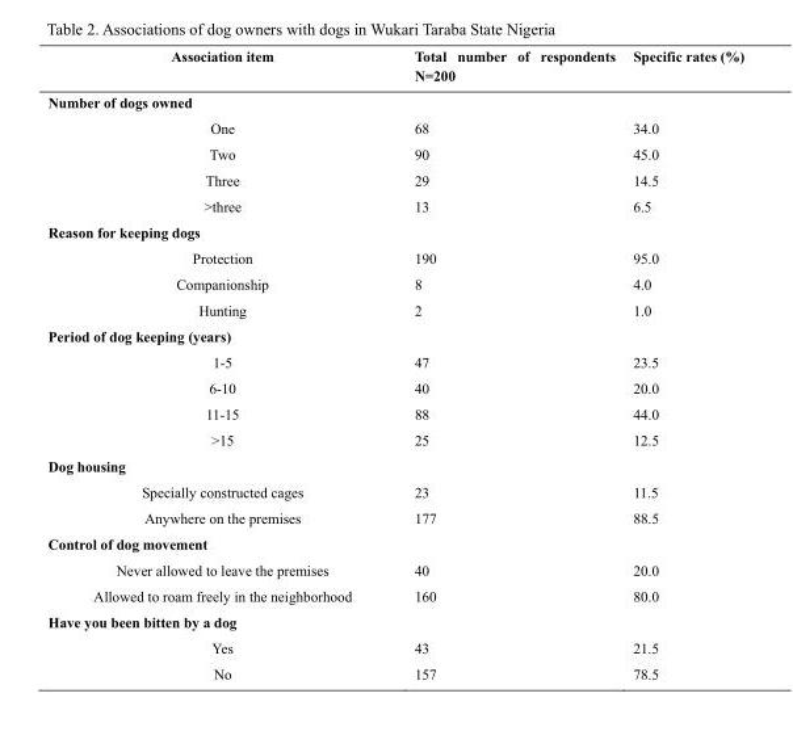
<table><thead><tr><td>Association item</td><td>Total number of respondents N=200</td><td>Specific rates (%)</td></tr></thead><tbody><tr><td colspan="3">Number of dogs owned</td></tr><tr><td>One</td><td>68</td><td>34.0</td></tr><tr><td>Two</td><td>90</td><td>45.0</td></tr><tr><td>Three</td><td>29</td><td>14.5</td></tr><tr><td>&gt;three</td><td>13</td><td>6.5</td></tr><tr><td colspan="3">Reason for keeping dogs</td></tr><tr><td>Protection</td><td>190</td><td>95.0</td></tr><tr><td>Companionship</td><td>8</td><td>4.0</td></tr><tr><td>Hunting</td><td>2</td><td>1.0</td></tr><tr><td colspan="3">Period of dog keeping (years)</td></tr><tr><td>1-5</td><td>47</td><td>23.5</td></tr><tr><td>6-10</td><td>40</td><td>20.0</td></tr><tr><td>11-15</td><td>88</td><td>44.0</td></tr><tr><td>&gt;15</td><td>25</td><td>12.5</td></tr><tr><td colspan="3">Dog housing</td></tr><tr><td>Specially constructed cages</td><td>23</td><td>11.5</td></tr><tr><td>Anywhere on the premises</td><td>177</td><td>88.5</td></tr><tr><td colspan="3">Control of dog movement</td></tr><tr><td>Never allowed to leave the premises</td><td>40</td><td>20.0</td></tr><tr><td>Allowed to roam freely in the neighborhood</td><td>160</td><td>80.0</td></tr><tr><td colspan="3">Have you been bitten by a dog</td></tr><tr><td>Yes</td><td>43</td><td>21.5</td></tr><tr><td>No</td><td>157</td><td>78.5</td></tr></tbody></table>